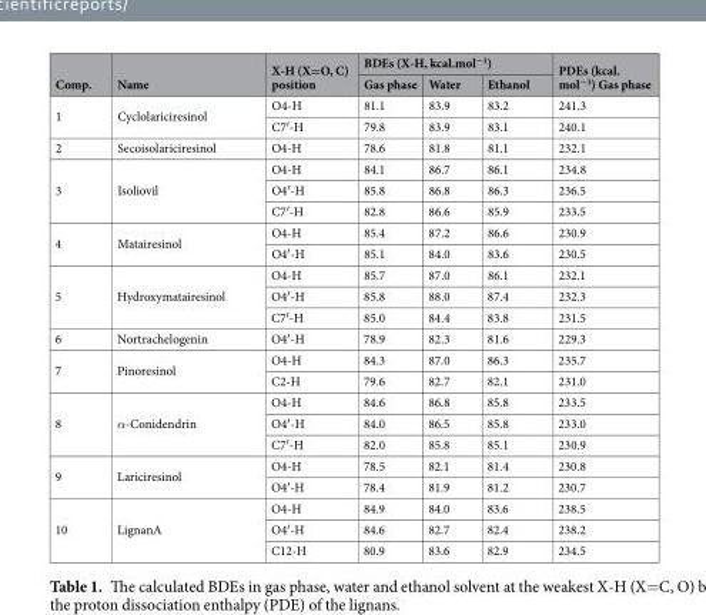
<table><thead><tr><td rowspan="2">Comp.</td><td rowspan="2">Name</td><td rowspan="2">X-H (X=O, C) position</td><td colspan="3">BDEs (X-H, kcal.mol<sup>−1</sup>)</td><td rowspan="2">PDEs (kcal. mol<sup>−1</sup>) Gas phase</td></tr><tr><td>Gas phase</td><td>Water</td><td>Ethanol</td></tr></thead><tbody><tr><td rowspan="2">1</td><td rowspan="2">Cyclolariciresinol</td><td>O4-H</td><td>81.1</td><td>83.9</td><td>83.2</td><td>241.3</td></tr><tr><td>C7′-H</td><td>79.8</td><td>83.9</td><td>83.1</td><td>240.1</td></tr><tr><td>2</td><td>Secoisolariciresinol</td><td>O4-H</td><td>78.6</td><td>81.8</td><td>81.1</td><td>232.1</td></tr><tr><td rowspan="3">3</td><td rowspan="3">Isoliovil</td><td>O4-H</td><td>84.1</td><td>86.7</td><td>86.1</td><td>234.8</td></tr><tr><td>O4′-H</td><td>85.8</td><td>86.8</td><td>86.3</td><td>236.5</td></tr><tr><td>C7′-H</td><td>82.8</td><td>86.6</td><td>85.9</td><td>233.5</td></tr><tr><td rowspan="2">4</td><td rowspan="2">Matairesinol</td><td>O4-H</td><td>85.4</td><td>87.2</td><td>86.6</td><td>230.9</td></tr><tr><td>O4′-H</td><td>85.1</td><td>84.0</td><td>83.6</td><td>230.5</td></tr><tr><td rowspan="3">5</td><td rowspan="3">Hydroxymatairesinol</td><td>O4-H</td><td>85.7</td><td>87.0</td><td>86.1</td><td>232.1</td></tr><tr><td>O4′-H</td><td>85.8</td><td>88.0</td><td>87.4</td><td>232.3</td></tr><tr><td>C7′-H</td><td>85.0</td><td>84.4</td><td>83.8</td><td>231.5</td></tr><tr><td>6</td><td>Nortrachelogenin</td><td>O4′-H</td><td>78.9</td><td>82.3</td><td>81.6</td><td>229.3</td></tr><tr><td rowspan="2">7</td><td rowspan="2">Pinoresinol</td><td>O4-H</td><td>84.3</td><td>87.0</td><td>86.3</td><td>235.7</td></tr><tr><td>C2-H</td><td>79.6</td><td>82.7</td><td>82.1</td><td>231.0</td></tr><tr><td rowspan="3">8</td><td rowspan="3">α-Conidendrin</td><td>O4-H</td><td>84.6</td><td>86.8</td><td>85.8</td><td>233.5</td></tr><tr><td>O4′-H</td><td>84.0</td><td>86.5</td><td>85.8</td><td>233.0</td></tr><tr><td>C7′-H</td><td>82.0</td><td>85.8</td><td>85.1</td><td>230.9</td></tr><tr><td rowspan="2">9</td><td rowspan="2">Lariciresinol</td><td>O4-H</td><td>78.5</td><td>82.1</td><td>81.4</td><td>230.8</td></tr><tr><td>O4′-H</td><td>78.4</td><td>81.9</td><td>81.2</td><td>230.7</td></tr><tr><td rowspan="3">10</td><td rowspan="3">LignanA</td><td>O4-H</td><td>84.9</td><td>84.0</td><td>83.6</td><td>238.5</td></tr><tr><td>O4′-H</td><td>84.6</td><td>82.7</td><td>82.4</td><td>238.2</td></tr><tr><td>C12-H</td><td>80.9</td><td>83.6</td><td>82.9</td><td>234.5</td></tr></tbody></table>